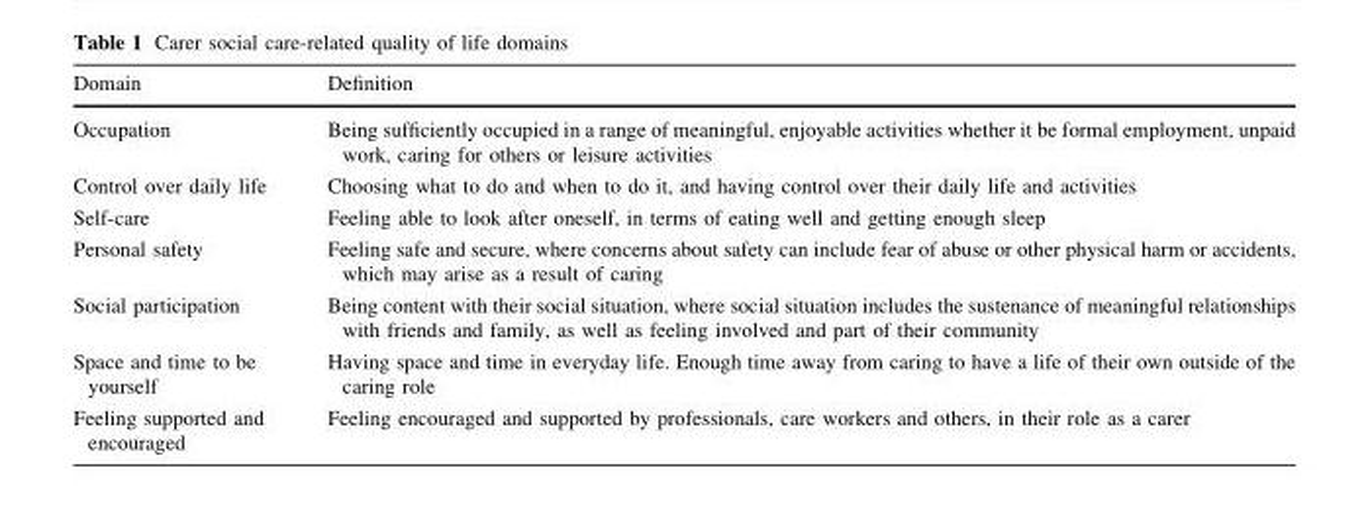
<table><thead><tr><td>Domain</td><td>Definition</td></tr></thead><tbody><tr><td>Occupation</td><td>Being sufficiently occupied in a range of meaningful, enjoyable activities whether it be formal employment, unpaid work, caring for others or leisure activities</td></tr><tr><td>Control over daily life</td><td>Choosing what to do and when to do it, and having control over their daily life and activities</td></tr><tr><td>Self-care</td><td>Feeling able to look after oneself, in terms of eating well and getting enough sleep</td></tr><tr><td>Personal safety</td><td>Feeling safe and secure, where concerns about safety can include fear of abuse or other physical harm or accidents, which may arise as a result of caring</td></tr><tr><td>Social participation</td><td>Being content with their social situation, where social situation includes the sustenance of meaningful relationships with friends and family, as well as feeling involved and part of their community</td></tr><tr><td>Space and time to be yourself</td><td>Having space and time in everyday life. Enough time away from caring to have a life of their own outside of the caring role</td></tr><tr><td>Feeling supported and encouraged</td><td>Feeling encouraged and supported by professionals, care workers and others, in their role as a carer</td></tr></tbody></table>